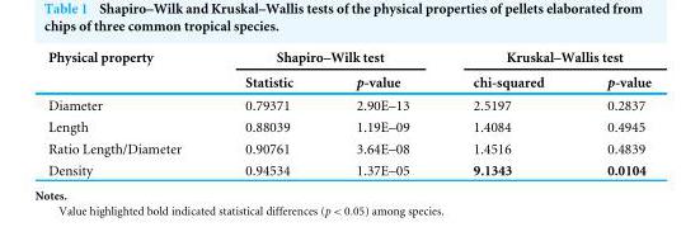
<table><thead><tr><td rowspan="2">Physical property</td><td colspan="2">Shapiro–Wilk test</td><td colspan="2">Kruskal–Wallis test</td></tr><tr><td>Statistic</td><td>p-value</td><td>chi-squared</td><td>p-value</td></tr></thead><tbody><tr><td>Diameter</td><td>0.79371</td><td>2.90E–13</td><td>2.5197</td><td>0.2837</td></tr><tr><td>Length</td><td>0.88039</td><td>1.19E–09</td><td>1.4084</td><td>0.4945</td></tr><tr><td>Ratio Length/Diameter</td><td>0.90761</td><td>3.64E–08</td><td>1.4516</td><td>0.4839</td></tr><tr><td>Density</td><td>0.94534</td><td>1.37E–05</td><td>9.1343</td><td>0.0104</td></tr></tbody></table>